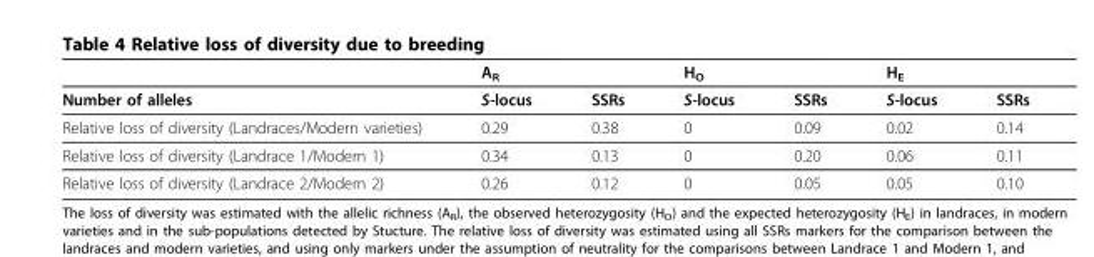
<table><thead><tr><td rowspan="2">Number of alleles</td><td colspan="2">AR</td><td colspan="2">HO</td><td colspan="2">HE</td></tr><tr><td>S-locus</td><td>SSRs</td><td>S-locus</td><td>SSRs</td><td>S-locus</td><td>SSRs</td></tr></thead><tbody><tr><td>Relative loss of diversity (Landraces/Modern varieties)</td><td>0.29</td><td>0.38</td><td>0</td><td>0.09</td><td>0.02</td><td>0.14</td></tr><tr><td>Relative loss of diversity (Landrace 1/Modern 1)</td><td>0.34</td><td>0.13</td><td>0</td><td>0.20</td><td>0.06</td><td>0.11</td></tr><tr><td>Relative loss of diversity (Landrace 2/Modern 2)</td><td>0.26</td><td>0.12</td><td>0</td><td>0.05</td><td>0.05</td><td>0.10</td></tr></tbody></table>